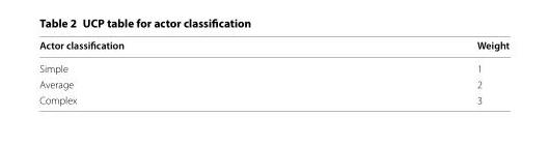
<table><thead><tr><td>Actor classification</td><td>Weight</td></tr></thead><tbody><tr><td>Simple</td><td>1</td></tr><tr><td>Average</td><td>2</td></tr><tr><td>Complex</td><td>3</td></tr></tbody></table>